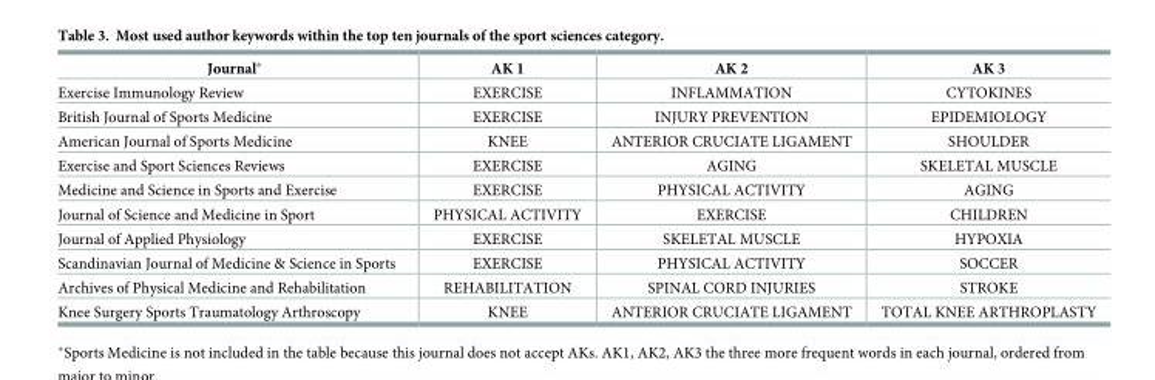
<table><thead><tr><td>Journal*</td><td>AK 1</td><td>AK 2</td><td>AK 3</td></tr></thead><tbody><tr><td>Exercise Immunology Review</td><td>EXERCISE</td><td>INFLAMMATION</td><td>CYTOKINES</td></tr><tr><td>British Journal of Sports Medicine</td><td>EXERCISE</td><td>INJURY PREVENTION</td><td>EPIDEMIOLOGY</td></tr><tr><td>American Journal of Sports Medicine</td><td>KNEE</td><td>ANTERIOR CRUCIATE LIGAMENT</td><td>SHOULDER</td></tr><tr><td>Exercise and Sport Sciences Reviews</td><td>EXERCISE</td><td>AGING</td><td>SKELETAL MUSCLE</td></tr><tr><td>Medicine and Science in Sports and Exercise</td><td>EXERCISE</td><td>PHYSICAL ACTIVITY</td><td>AGING</td></tr><tr><td>Journal of Science and Medicine in Sport</td><td>PHYSICAL ACTIVITY</td><td>EXERCISE</td><td>CHILDREN</td></tr><tr><td>Journal of Applied Physiology</td><td>EXERCISE</td><td>SKELETAL MUSCLE</td><td>HYPOXIA</td></tr><tr><td>Scandinavian Journal of Medicine &amp; Science in Sports</td><td>EXERCISE</td><td>PHYSICAL ACTIVITY</td><td>SOCCER</td></tr><tr><td>Archives of Physical Medicine and Rehabilitation</td><td>REHABILITATION</td><td>SPINAL CORD INJURIES</td><td>STROKE</td></tr><tr><td>Knee Surgery Sports Traumatology Arthroscopy</td><td>KNEE</td><td>ANTERIOR CRUCIATE LIGAMENT</td><td>TOTAL KNEE ARTHROPLASTY</td></tr></tbody></table>